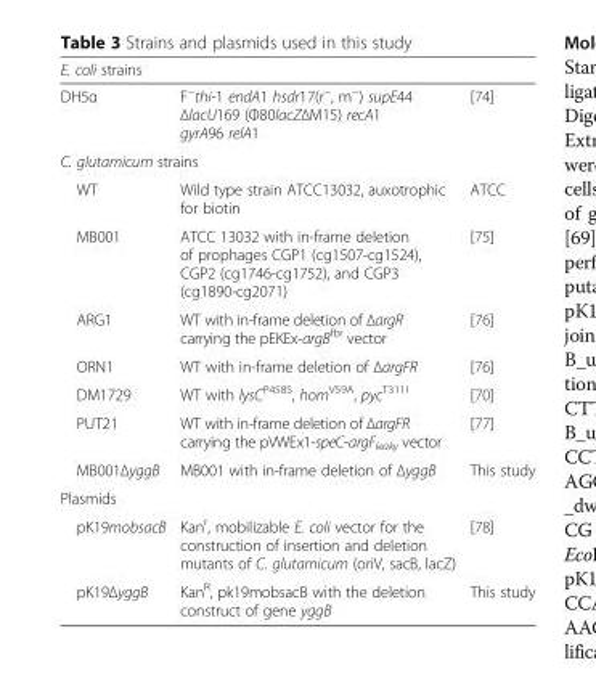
<table><thead><tr><td colspan="3">E. coli strains</td></tr><tr><td>DH5α</td><td>F−thi-1 endA1 hsdr17(r−, m−) supE44 ΔlacU169 (Φ80lacZΔM15) recA1 gyrA96 relA1</td><td>[74]</td></tr></thead><tbody><tr><td colspan="3">C. glutamicum strains</td></tr><tr><td>WT</td><td>Wild type strain ATCC13032, auxotrophic for biotin</td><td>ATCC</td></tr><tr><td>MB001</td><td>ATCC 13032 with in-frame deletion of prophages CGP1 (cg1507-cg1524), CGP2 (cg1746-cg1752), and CGP3 (cg1890-cg2071)</td><td>[75]</td></tr><tr><td>ARG1</td><td>WT with in-frame deletion of ΔargR carrying the pEKEx-argBfbr vector</td><td>[76]</td></tr><tr><td>ORN1</td><td>WT with in-frame deletion of ΔargFR</td><td>[76]</td></tr><tr><td>DM1729</td><td>WT with lysC<sup>P458S</sup>, hom<sup>V59A</sup>, pyc<sup>T311I</sup></td><td>[70]</td></tr><tr><td>PUT21</td><td>WT with in-frame deletion of ΔargFR carrying the pVWEx1-speC-argFleaky vector</td><td>[77]</td></tr><tr><td>MB001ΔyggB</td><td>MB001 with in-frame deletion of ΔyggB</td><td>This study</td></tr><tr><td colspan="3">Plasmids</td></tr><tr><td>pK19mobsacB</td><td>Kan<sup>r</sup>, mobilizable E. coli vector for the construction of insertion and deletion mutants of C. glutamicum (oriV, sacB, lacZ)</td><td>[78]</td></tr><tr><td>pK19ΔyggB</td><td>Kan<sup>R</sup>, pk19mobsacB with the deletion construct of gene yggB</td><td>This study</td></tr></tbody></table>